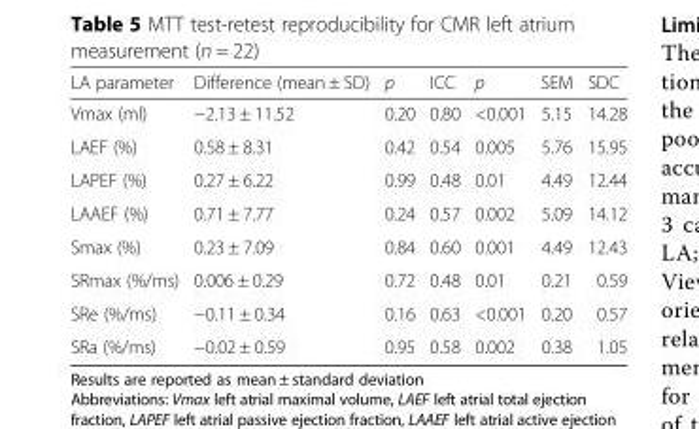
<table><thead><tr><td>LA parameter</td><td>Difference (mean ± SD)</td><td>p</td><td>ICC</td><td>p</td><td>SEM</td><td>SDC</td></tr></thead><tbody><tr><td>Vmax (ml)</td><td>−2.13 ± 11.52</td><td>0.20</td><td>0.80</td><td>&lt;0.001</td><td>5.15</td><td>14.28</td></tr><tr><td>LAEF (%)</td><td>0.58 ± 8.31</td><td>0.42</td><td>0.54</td><td>0.005</td><td>5.76</td><td>15.95</td></tr><tr><td>LAPEF (%)</td><td>0.27 ± 6.22</td><td>0.99</td><td>0.48</td><td>0.01</td><td>4.49</td><td>12.44</td></tr><tr><td>LAAEF (%)</td><td>0.71 ± 7.77</td><td>0.24</td><td>0.57</td><td>0.002</td><td>5.09</td><td>14.12</td></tr><tr><td>Smax (%)</td><td>0.23 ± 7.09</td><td>0.84</td><td>0.60</td><td>0.001</td><td>4.49</td><td>12.43</td></tr><tr><td>SRmax (%/ms)</td><td>0.006 ± 0.29</td><td>0.72</td><td>0.48</td><td>0.01</td><td>0.21</td><td>0.59</td></tr><tr><td>SRe (%/ms)</td><td>−0.11 ± 0.34</td><td>0.16</td><td>0.63</td><td>&lt;0.001</td><td>0.20</td><td>0.57</td></tr><tr><td>SRa (%/ms)</td><td>−0.02 ± 0.59</td><td>0.95</td><td>0.58</td><td>0.002</td><td>0.38</td><td>1.05</td></tr></tbody></table>